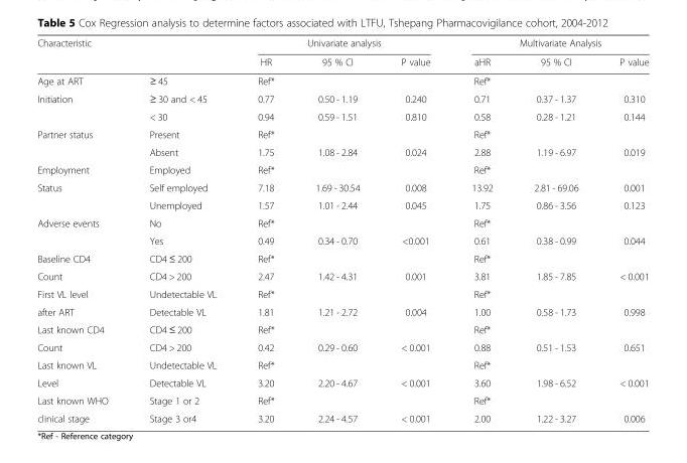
<table><thead><tr><td rowspan="2">Characteristic</td><td rowspan="2"></td><td colspan="3">Univariate analysis</td><td colspan="3">Multivariate Analysis</td></tr><tr><td>HR</td><td>95 % CI</td><td>P value</td><td>aHR</td><td>95 % CI</td><td>P value</td></tr></thead><tbody><tr><td>Age at ART</td><td>≥ 45</td><td>Ref*</td><td></td><td></td><td>Ref*</td><td></td><td></td></tr><tr><td rowspan="2">Initiation</td><td>≥ 30 and &lt; 45</td><td>0.77</td><td>0.50 - 1.19</td><td>0.240</td><td>0.71</td><td>0.37 - 1.37</td><td>0.310</td></tr><tr><td>&lt; 30</td><td>0.94</td><td>0.59 - 1.51</td><td>0.810</td><td>0.58</td><td>0.28 - 1.21</td><td>0.144</td></tr><tr><td rowspan="2">Partner status</td><td>Present</td><td>Ref*</td><td></td><td></td><td>Ref*</td><td></td><td></td></tr><tr><td>Absent</td><td>1.75</td><td>1.08 - 2.84</td><td>0.024</td><td>2.88</td><td>1.19 - 6.97</td><td>0.019</td></tr><tr><td>Employment</td><td>Employed</td><td>Ref*</td><td></td><td></td><td>Ref*</td><td></td><td></td></tr><tr><td rowspan="2">Status</td><td>Self employed</td><td>7.18</td><td>1.69 - 30.54</td><td>0.008</td><td>13.92</td><td>2.81 - 69.06</td><td>0.001</td></tr><tr><td>Unemployed</td><td>1.57</td><td>1.01 - 2.44</td><td>0.045</td><td>1.75</td><td>0.86 - 3.56</td><td>0.123</td></tr><tr><td rowspan="2">Adverse events</td><td>No</td><td>Ref*</td><td></td><td></td><td>Ref*</td><td></td><td></td></tr><tr><td>Yes</td><td>0.49</td><td>0.34 - 0.70</td><td>&lt;0.001</td><td>0.61</td><td>0.38 - 0.99</td><td>0.044</td></tr><tr><td>Baseline CD4</td><td>CD4 ≤ 200</td><td>Ref*</td><td></td><td></td><td>Ref*</td><td></td><td></td></tr><tr><td>Count</td><td>CD4 &gt; 200</td><td>2.47</td><td>1.42 - 4.31</td><td>0.001</td><td>3.81</td><td>1.85 - 7.85</td><td>&lt; 0.001</td></tr><tr><td>First VL level</td><td>Undetectable VL</td><td>Ref*</td><td></td><td></td><td>Ref*</td><td></td><td></td></tr><tr><td>after ART</td><td>Detectable VL</td><td>1.81</td><td>1.21 - 2.72</td><td>0.004</td><td>1.00</td><td>0.58 - 1.73</td><td>0.998</td></tr><tr><td>Last known CD4</td><td>CD4 ≤ 200</td><td>Ref*</td><td></td><td></td><td>Ref*</td><td></td><td></td></tr><tr><td>Count</td><td>CD4 &gt; 200</td><td>0.42</td><td>0.29 - 0.60</td><td>&lt; 0.001</td><td>0.88</td><td>0.51 - 1.53</td><td>0.651</td></tr><tr><td>Last known VL</td><td>Undetectable VL</td><td>Ref*</td><td></td><td></td><td>Ref*</td><td></td><td></td></tr><tr><td>Level</td><td>Detectable VL</td><td>3.20</td><td>2.20 - 4.67</td><td>&lt; 0.001</td><td>3.60</td><td>1.98 - 6.52</td><td>&lt; 0.001</td></tr><tr><td>Last known WHO</td><td>Stage 1 or 2</td><td>Ref*</td><td></td><td></td><td>Ref*</td><td></td><td></td></tr><tr><td>clinical stage</td><td>Stage 3 or4</td><td>3.20</td><td>2.24 - 4.57</td><td>&lt; 0.001</td><td>2.00</td><td>1.22 - 3.27</td><td>0.006</td></tr></tbody></table>